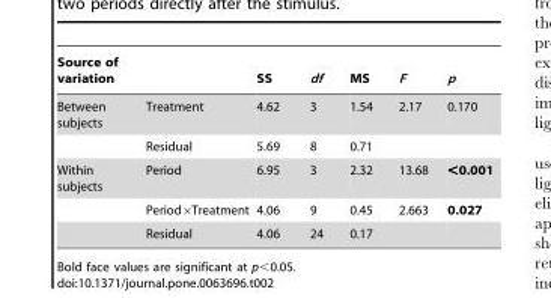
<table><thead><tr><td>Source of variation</td><td></td><td>SS</td><td>df</td><td>MS</td><td>F</td><td>p</td></tr></thead><tbody><tr><td rowspan="2">Between subjects</td><td>Treatment</td><td>4.62</td><td>3</td><td>1.54</td><td>2.17</td><td>0.170</td></tr><tr><td>Residual</td><td>5.69</td><td>8</td><td>0.71</td><td></td><td></td></tr><tr><td rowspan="3">Within subjects</td><td>Period</td><td>6.95</td><td>3</td><td>2.32</td><td>13.68</td><td>&lt;0.001</td></tr><tr><td>Period×Treatment</td><td>4.06</td><td>9</td><td>0.45</td><td>2.663</td><td>0.027</td></tr><tr><td>Residual</td><td>4.06</td><td>24</td><td>0.17</td><td></td><td></td></tr></tbody></table>